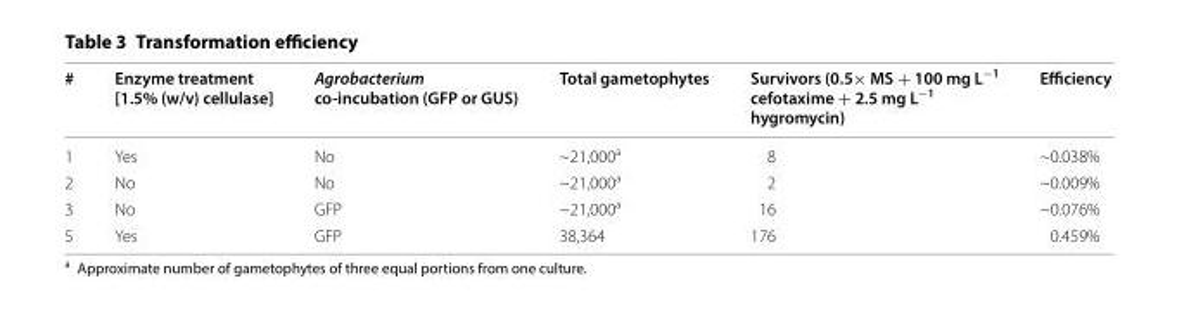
<table><thead><tr><td>#</td><td>Enzyme treatment [1.5% (w/v) cellulase]</td><td>Agrobacterium co‑incubation (GFP or GUS)</td><td>Total gametophytes</td><td>Survivors (0.5× MS + 100 mg L<sup>−1</sup> cefotaxime + 2.5 mg L<sup>−1</sup> hygromycin)</td><td>Efficiency</td></tr></thead><tbody><tr><td>1</td><td>Yes</td><td>No</td><td>~21,000<sup>a</sup></td><td>8</td><td>~0.038%</td></tr><tr><td>2</td><td>No</td><td>No</td><td>~21,000<sup>a</sup></td><td>2</td><td>~0.009%</td></tr><tr><td>3</td><td>No</td><td>GFP</td><td>~21,000<sup>a</sup></td><td>16</td><td>~0.076%</td></tr><tr><td>5</td><td>Yes</td><td>GFP</td><td>38,364</td><td>176</td><td>0.459%</td></tr></tbody></table>